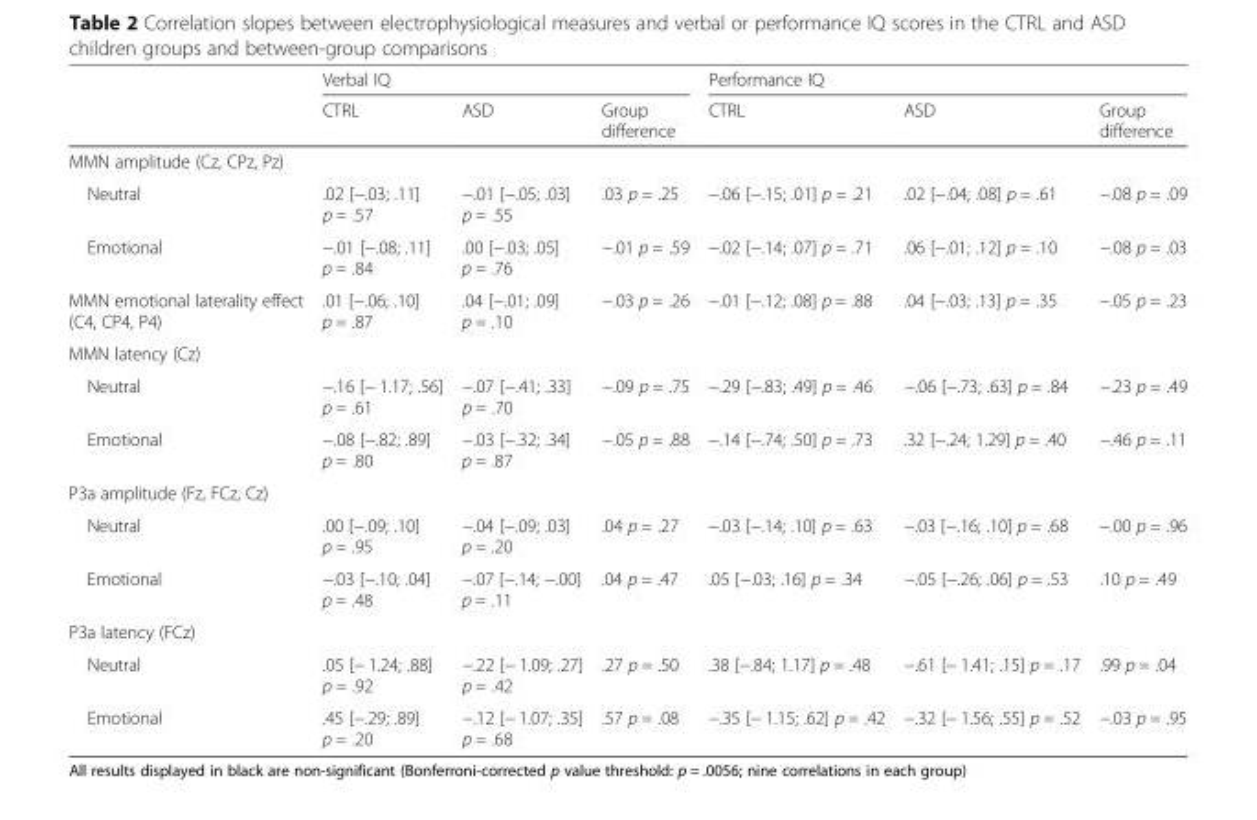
<table><thead><tr><td rowspan="2"></td><td colspan="3">Verbal IQ</td><td colspan="3">Performance IQ</td></tr><tr><td>CTRL</td><td>ASD</td><td>Group difference</td><td>CTRL</td><td>ASD</td><td>Group difference</td></tr></thead><tbody><tr><td colspan="7">MMN amplitude (Cz, CPz, Pz)</td></tr><tr><td>Neutral</td><td>.02 [−.03; .11] p = .57</td><td>−.01 [−.05; .03] p = .55</td><td>.03 p = .25</td><td>−.06 [−.15; .01] p = .21</td><td>.02 [−.04; .08] p = .61</td><td>−.08 p = .09</td></tr><tr><td>Emotional</td><td>−.01 [−.08; .11] p = .84</td><td>.00 [−.03; .05] p = .76</td><td>−.01 p = .59</td><td>−.02 [−.14; .07] p = .71</td><td>.06 [−.01; .12] p = .10</td><td>−.08 p = .03</td></tr><tr><td>MMN emotional laterality effect (C4, CP4, P4)</td><td>.01 [−.06; .10] p = .87</td><td>.04 [−.01; .09] p = .10</td><td>−.03 p = .26</td><td>−.01 [−.12; .08] p = .88</td><td>.04 [−.03; .13] p = .35</td><td>−.05 p = .23</td></tr><tr><td colspan="7">MMN latency (Cz)</td></tr><tr><td>Neutral</td><td>−.16 [− 1.17; .56] p = .61</td><td>−.07 [−.41; .33] p = .70</td><td>−.09 p = .75</td><td>−.29 [−.83; .49] p = .46</td><td>−.06 [−.73; .63] p = .84</td><td>−.23 p = .49</td></tr><tr><td>Emotional</td><td>−.08 [−.82; .89] p = .80</td><td>−.03 [−.32; .34] p = .87</td><td>−.05 p = .88</td><td>−.14 [−.74; .50] p = .73</td><td>.32 [−.24; 1.29] p = .40</td><td>−.46 p = .11</td></tr><tr><td colspan="7">P3a amplitude (Fz, FCz, Cz)</td></tr><tr><td>Neutral</td><td>.00 [−.09; .10] p = .95</td><td>−.04 [−.09; .03] p = .20</td><td>.04 p = .27</td><td>−.03 [−.14; .10] p = .63</td><td>−.03 [−.16; .10] p = .68</td><td>−.00 p = .96</td></tr><tr><td>Emotional</td><td>−.03 [−.10; .04] p = .48</td><td>−.07 [−.14; −.00] p = .11</td><td>.04 p = .47</td><td>.05 [−.03; .16] p = .34</td><td>−.05 [−.26; .06] p = .53</td><td>.10 p = .49</td></tr><tr><td colspan="7">P3a latency (FCz)</td></tr><tr><td>Neutral</td><td>.05 [− 1.24; .88] p = .92</td><td>−.22 [− 1.09; .27] p = .42</td><td>.27 p = .50</td><td>.38 [−.84; 1.17] p = .48</td><td>−.61 [− 1.41; .15] p = .17</td><td>.99 p = .04</td></tr><tr><td>Emotional</td><td>.45 [−.29; .89] p = .20</td><td>−.12 [− 1.07; .35] p = .68</td><td>.57 p = .08</td><td>−.35 [− 1.15; .62] p = .42</td><td>−.32 [− 1.56; .55] p = .52</td><td>−.03 p = .95</td></tr></tbody></table>